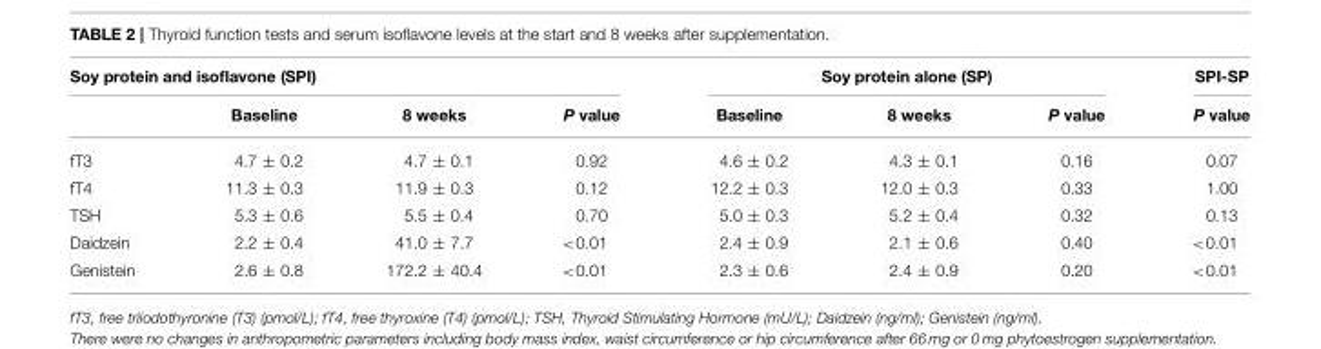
<table><thead><tr><td colspan="4">Soy protein and isoflavone (SPI)</td><td colspan="3">Soy protein alone (SP)</td><td rowspan="2">SPI-SP P value</td></tr><tr><td></td><td>Baseline</td><td>8 weeks</td><td>P value</td><td>Baseline</td><td>8 weeks</td><td>P value</td></tr></thead><tbody><tr><td>fT3</td><td>4.7 ± 0.2</td><td>4.7 ± 0.1</td><td>0.92</td><td>4.6 ± 0.2</td><td>4.3 ± 0.1</td><td>0.16</td><td>0.07</td></tr><tr><td>fT4</td><td>11.3 ± 0.3</td><td>11.9 ± 0.3</td><td>0.12</td><td>12.2 ± 0.3</td><td>12.0 ± 0.3</td><td>0.33</td><td>1.00</td></tr><tr><td>TSH</td><td>5.3 ± 0.6</td><td>5.5 ± 0.4</td><td>0.70</td><td>5.0 ± 0.3</td><td>5.2 ± 0.4</td><td>0.32</td><td>0.13</td></tr><tr><td>Daidzein</td><td>2.2 ± 0.4</td><td>41.0 ± 7.7</td><td>&lt;0.01</td><td>2.4 ± 0.9</td><td>2.1 ± 0.6</td><td>0.40</td><td>&lt;0.01</td></tr><tr><td>Genistein</td><td>2.6 ± 0.8</td><td>172.2 ± 40.4</td><td>&lt;0.01</td><td>2.3 ± 0.6</td><td>2.4 ± 0.9</td><td>0.20</td><td>&lt;0.01</td></tr></tbody></table>